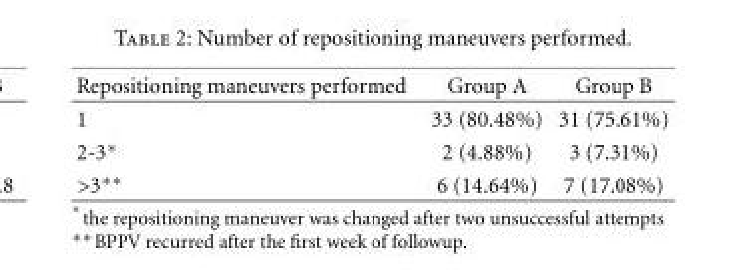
<table><thead><tr><td>Repositioning maneuvers performed</td><td>Group A</td><td>Group B</td></tr></thead><tbody><tr><td>1</td><td>33 (80.48%)</td><td>31 (75.61%)</td></tr><tr><td>2-3∗</td><td>2 (4.88%)</td><td>3 (7.31%)</td></tr><tr><td>&gt;3∗∗</td><td>6 (14.64%)</td><td>7 (17.08%)</td></tr></tbody></table>